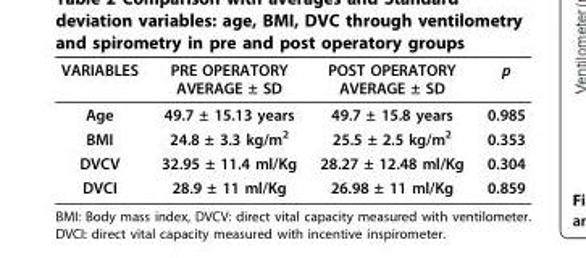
<table><thead><tr><td>VARIABLES</td><td>PRE OPERATORY AVERAGE ± SD</td><td>POST OPERATORY AVERAGE ± SD</td><td>p</td></tr></thead><tbody><tr><td>Age</td><td>49.7 ± 15.13 years</td><td>49.7 ± 15.8 years</td><td>0.985</td></tr><tr><td>BMI</td><td>24.8 ± 3.3 kg/m<sup>2</sup></td><td>25.5 ± 2.5 kg/m<sup>2</sup></td><td>0.353</td></tr><tr><td>DVCV</td><td>32.95 ± 11.4 ml/Kg</td><td>28.27 ± 12.48 ml/Kg</td><td>0.304</td></tr><tr><td>DVCI</td><td>28.9 ± 11 ml/Kg</td><td>26.98 ± 11 ml/Kg</td><td>0.859</td></tr></tbody></table>